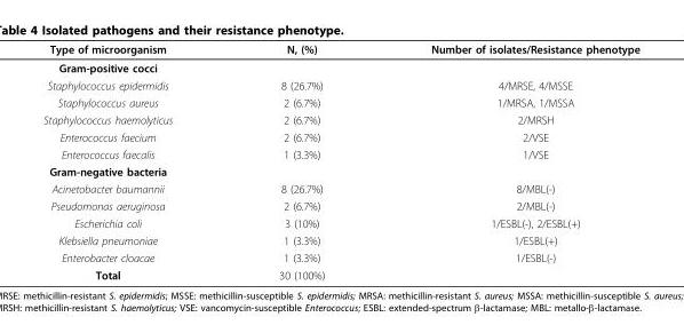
<table><thead><tr><td>Type of microorganism</td><td>Ν, (%)</td><td>Number of isolates/Resistance phenotype</td></tr></thead><tbody><tr><td colspan="3">Gram-positive cocci</td></tr><tr><td>Staphylococcus epidermidis</td><td>8 (26.7%)</td><td>4/MRSE, 4/MSSE</td></tr><tr><td>Staphylococcus aureus</td><td>2 (6.7%)</td><td>1/MRSA, 1/MSSA</td></tr><tr><td>Staphylococcus haemolyticus</td><td>2 (6.7%)</td><td>2/MRSH</td></tr><tr><td>Enterococcus faecium</td><td>2 (6.7%)</td><td>2/VSE</td></tr><tr><td>Enterococcus faecalis</td><td>1 (3.3%)</td><td>1/VSE</td></tr><tr><td colspan="3">Gram-negative bacteria</td></tr><tr><td>Acinetobacter baumannii</td><td>8 (26.7%)</td><td>8/MBL(-)</td></tr><tr><td>Pseudomonas aeruginosa</td><td>2 (6.7%)</td><td>2/MBL(-)</td></tr><tr><td>Escherichia coli</td><td>3 (10%)</td><td>1/ESBL(-), 2/ESBL(+)</td></tr><tr><td>Klebsiella pneumoniae</td><td>1 (3.3%)</td><td>1/ESBL(+)</td></tr><tr><td>Enterobacter cloacae</td><td>1 (3.3%)</td><td>1/ESBL(-)</td></tr><tr><td>Total</td><td>30 (100%)</td><td></td></tr></tbody></table>